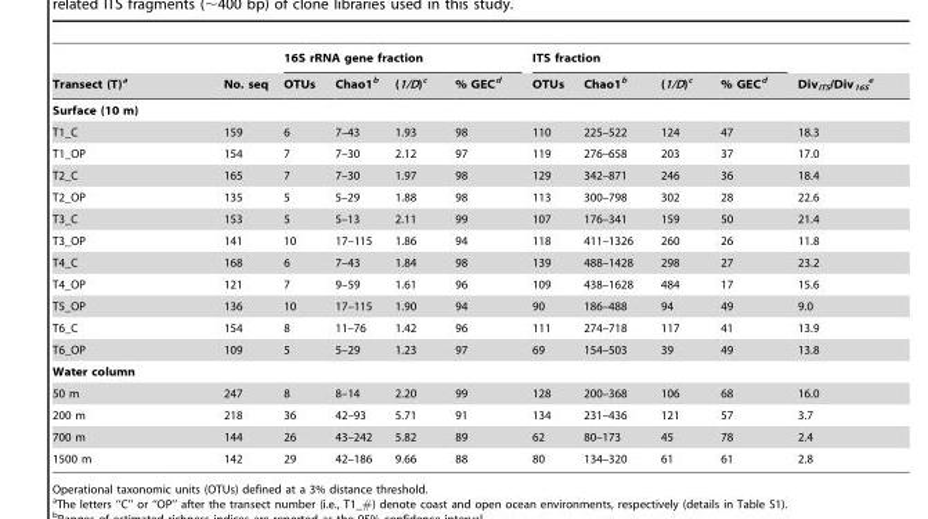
<table><thead><tr><td rowspan="2">Transect (T)<sup>a</sup></td><td rowspan="2">No. seq</td><td colspan="4">16S rRNA gene fraction</td><td colspan="4">ITS fraction</td><td rowspan="2">Div<sub>ITS</sub>/Div<sub>16S</sub> e</td></tr><tr><td>OTUs</td><td>Chao1<sup>b</sup></td><td>(1/D)<sup>c</sup></td><td>% GEC<sup>d</sup></td><td>OTUs</td><td>Chao1<sup>b</sup></td><td>(1/D)<sup>c</sup></td><td>% GEC<sup>d</sup></td></tr></thead><tbody><tr><td colspan="11">Surface (10 m)</td></tr><tr><td>T1_C</td><td>159</td><td>6</td><td>7–43</td><td>1.93</td><td>98</td><td>110</td><td>225–522</td><td>124</td><td>47</td><td>18.3</td></tr><tr><td>T1_OP</td><td>154</td><td>7</td><td>7–30</td><td>2.12</td><td>97</td><td>119</td><td>276–658</td><td>203</td><td>37</td><td>17.0</td></tr><tr><td>T2_C</td><td>165</td><td>7</td><td>7–30</td><td>1.97</td><td>98</td><td>129</td><td>342–871</td><td>246</td><td>36</td><td>18.4</td></tr><tr><td>T2_OP</td><td>135</td><td>5</td><td>5–29</td><td>1.88</td><td>98</td><td>113</td><td>300–798</td><td>302</td><td>28</td><td>22.6</td></tr><tr><td>T3_C</td><td>153</td><td>5</td><td>5–13</td><td>2.11</td><td>99</td><td>107</td><td>176–341</td><td>159</td><td>50</td><td>21.4</td></tr><tr><td>T3_OP</td><td>141</td><td>10</td><td>17–115</td><td>1.86</td><td>94</td><td>118</td><td>411–1326</td><td>260</td><td>26</td><td>11.8</td></tr><tr><td>T4_C</td><td>168</td><td>6</td><td>7–43</td><td>1.84</td><td>98</td><td>139</td><td>488–1428</td><td>298</td><td>27</td><td>23.2</td></tr><tr><td>T4_OP</td><td>121</td><td>7</td><td>9–59</td><td>1.61</td><td>96</td><td>109</td><td>438–1628</td><td>484</td><td>17</td><td>15.6</td></tr><tr><td>T5_OP</td><td>136</td><td>10</td><td>17–115</td><td>1.90</td><td>94</td><td>90</td><td>186–488</td><td>94</td><td>49</td><td>9.0</td></tr><tr><td>T6_C</td><td>154</td><td>8</td><td>11–76</td><td>1.42</td><td>96</td><td>111</td><td>274–718</td><td>117</td><td>41</td><td>13.9</td></tr><tr><td>T6_OP</td><td>109</td><td>5</td><td>5–29</td><td>1.23</td><td>97</td><td>69</td><td>154–503</td><td>39</td><td>49</td><td>13.8</td></tr><tr><td colspan="11">Water column</td></tr><tr><td>50 m</td><td>247</td><td>8</td><td>8–14</td><td>2.20</td><td>99</td><td>128</td><td>200–368</td><td>106</td><td>68</td><td>16.0</td></tr><tr><td>200 m</td><td>218</td><td>36</td><td>42–93</td><td>5.71</td><td>91</td><td>134</td><td>231–436</td><td>121</td><td>57</td><td>3.7</td></tr><tr><td>700 m</td><td>144</td><td>26</td><td>43–242</td><td>5.82</td><td>89</td><td>62</td><td>80–173</td><td>45</td><td>78</td><td>2.4</td></tr><tr><td>1500 m</td><td>142</td><td>29</td><td>42–186</td><td>9.66</td><td>88</td><td>80</td><td>134–320</td><td>61</td><td>61</td><td>2.8</td></tr></tbody></table>